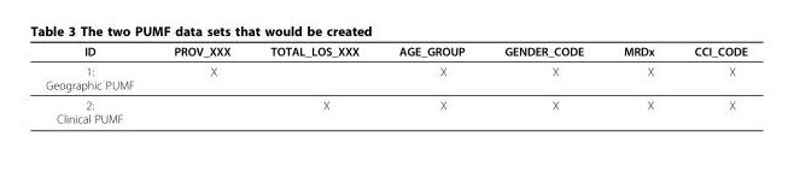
<table><thead><tr><td>ID</td><td>PROV_XXX</td><td>TOTAL_LOS_XXX</td><td>AGE_GROUP</td><td>GENDER_CODE</td><td>MRDx</td><td>CCI_CODE</td></tr></thead><tbody><tr><td>1: Geographic PUMF</td><td>X</td><td></td><td>X</td><td>X</td><td>X</td><td>X</td></tr><tr><td>2: Clinical PUMF</td><td></td><td>X</td><td>X</td><td>X</td><td>X</td><td>X</td></tr></tbody></table>